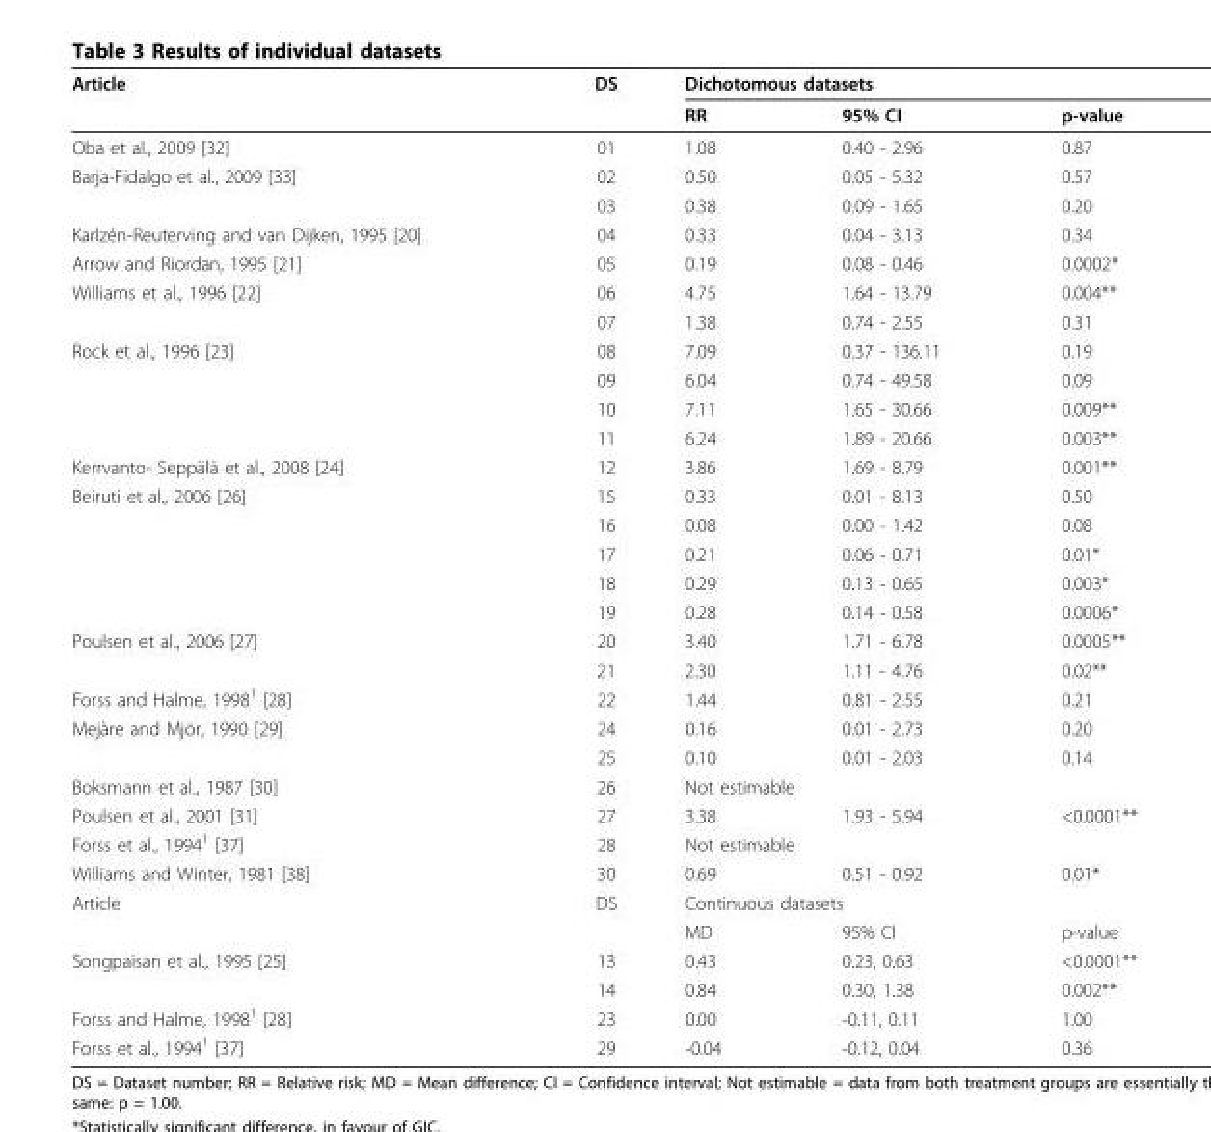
<table><thead><tr><td rowspan="2">Article</td><td rowspan="2">DS</td><td colspan="3">Dichotomous datasets</td></tr><tr><td>RR</td><td>95% CI</td><td>p-value</td></tr></thead><tbody><tr><td>Oba et al., 2009 [32]</td><td>01</td><td>1.08</td><td>0.40 - 2.96</td><td>0.87</td></tr><tr><td rowspan="2">Barja-Fidalgo et al., 2009 [33]</td><td>02</td><td>0.50</td><td>0.05 - 5.32</td><td>0.57</td></tr><tr><td>03</td><td>0.38</td><td>0.09 - 1.65</td><td>0.20</td></tr><tr><td>Karlzén-Reuterving and van Dijken, 1995 [20]</td><td>04</td><td>0.33</td><td>0.04 - 3.13</td><td>0.34</td></tr><tr><td>Arrow and Riordan, 1995 [21]</td><td>05</td><td>0.19</td><td>0.08 - 0.46</td><td>0.0002*</td></tr><tr><td rowspan="2">Williams et al., 1996 [22]</td><td>06</td><td>4.75</td><td>1.64 - 13.79</td><td>0.004**</td></tr><tr><td>07</td><td>1.38</td><td>0.74 - 2.55</td><td>0.31</td></tr><tr><td rowspan="4">Rock et al., 1996 [23]</td><td>08</td><td>7.09</td><td>0.37 - 136.11</td><td>0.19</td></tr><tr><td>09</td><td>6.04</td><td>0.74 - 49.58</td><td>0.09</td></tr><tr><td>10</td><td>7.11</td><td>1.65 - 30.66</td><td>0.009**</td></tr><tr><td>11</td><td>6.24</td><td>1.89 - 20.66</td><td>0.003**</td></tr><tr><td>Kerrvanto- Seppälä et al., 2008 [24]</td><td>12</td><td>3.86</td><td>1.69 - 8.79</td><td>0.001**</td></tr><tr><td rowspan="5">Beiruti et al., 2006 [26]</td><td>15</td><td>0.33</td><td>0.01 - 8.13</td><td>0.50</td></tr><tr><td>16</td><td>0.08</td><td>0.00 - 1.42</td><td>0.08</td></tr><tr><td>17</td><td>0.21</td><td>0.06 - 0.71</td><td>0.01*</td></tr><tr><td>18</td><td>0.29</td><td>0.13 - 0.65</td><td>0.003*</td></tr><tr><td>19</td><td>0.28</td><td>0.14 - 0.58</td><td>0.0006*</td></tr><tr><td rowspan="2">Poulsen et al., 2006 [27]</td><td>20</td><td>3.40</td><td>1.71 - 6.78</td><td>0.0005**</td></tr><tr><td>21</td><td>2.30</td><td>1.11 - 4.76</td><td>0.02**</td></tr><tr><td>Forss and Halme, 1998<sup>1</sup> [28]</td><td>22</td><td>1.44</td><td>0.81 - 2.55</td><td>0.21</td></tr><tr><td rowspan="2">Mejàre and Mjör, 1990 [29]</td><td>24</td><td>0.16</td><td>0.01 - 2.73</td><td>0.20</td></tr><tr><td>25</td><td>0.10</td><td>0.01 - 2.03</td><td>0.14</td></tr><tr><td>Boksmann et al., 1987 [30]</td><td>26</td><td colspan="3">Not estimable</td></tr><tr><td>Poulsen et al., 2001 [31]</td><td>27</td><td>3.38</td><td>1.93 - 5.94</td><td>&lt;0.0001**</td></tr><tr><td>Forss et al., 1994<sup>1</sup> [37]</td><td>28</td><td colspan="3">Not estimable</td></tr><tr><td>Williams and Winter, 1981 [38]</td><td>30</td><td>0.69</td><td>0.51 - 0.92</td><td>0.01*</td></tr><tr><td rowspan="2">Article</td><td>DS</td><td colspan="3">Continuous datasets</td></tr><tr><td></td><td>MD</td><td>95% CI</td><td>p-value</td></tr><tr><td rowspan="2">Songpaisan et al., 1995 [25]</td><td>13</td><td>0.43</td><td>0.23, 0.63</td><td>&lt;0.0001**</td></tr><tr><td>14</td><td>0.84</td><td>0.30, 1.38</td><td>0.002**</td></tr><tr><td>Forss and Halme, 1998<sup>1</sup> [28]</td><td>23</td><td>0.00</td><td>-0.11, 0.11</td><td>1.00</td></tr><tr><td>Forss et al., 1994<sup>1</sup> [37]</td><td>29</td><td>-0.04</td><td>-0.12, 0.04</td><td>0.36</td></tr></tbody></table>